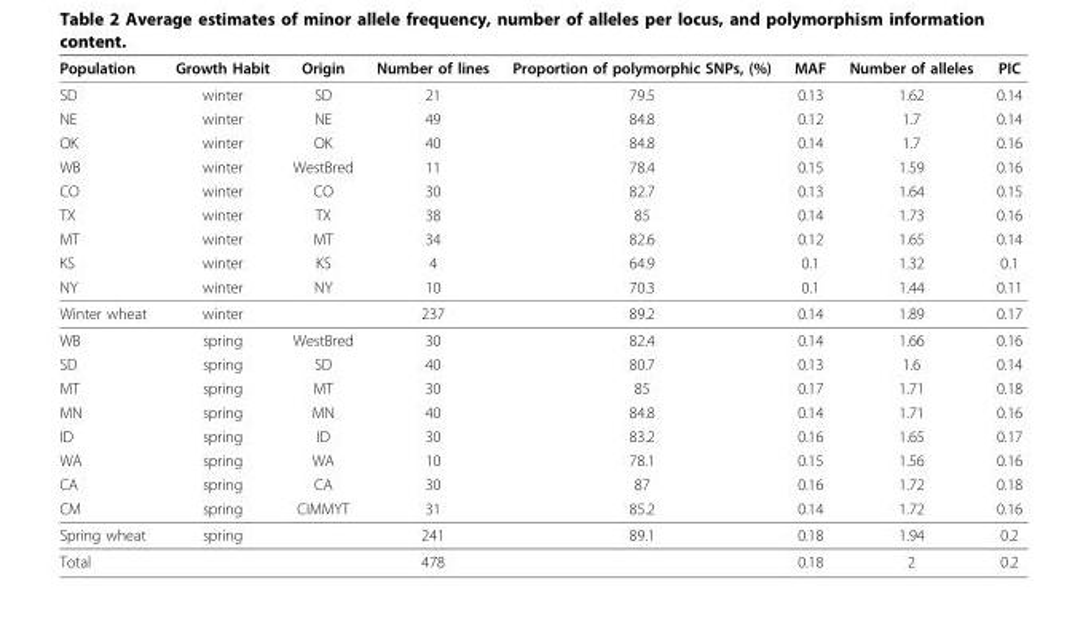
<table><thead><tr><td>Population</td><td>Growth Habit</td><td>Origin</td><td>Number of lines</td><td>Proportion of polymorphic SNPs, (%)</td><td>MAF</td><td>Number of alleles</td><td>PIC</td></tr></thead><tbody><tr><td>SD</td><td>winter</td><td>SD</td><td>21</td><td>79.5</td><td>0.13</td><td>1.62</td><td>0.14</td></tr><tr><td>NE</td><td>winter</td><td>NE</td><td>49</td><td>84.8</td><td>0.12</td><td>1.7</td><td>0.14</td></tr><tr><td>OK</td><td>winter</td><td>OK</td><td>40</td><td>84.8</td><td>0.14</td><td>1.7</td><td>0.16</td></tr><tr><td>WB</td><td>winter</td><td>WestBred</td><td>11</td><td>78.4</td><td>0.15</td><td>1.59</td><td>0.16</td></tr><tr><td>CO</td><td>winter</td><td>CO</td><td>30</td><td>82.7</td><td>0.13</td><td>1.64</td><td>0.15</td></tr><tr><td>TX</td><td>winter</td><td>TX</td><td>38</td><td>85</td><td>0.14</td><td>1.73</td><td>0.16</td></tr><tr><td>MT</td><td>winter</td><td>MT</td><td>34</td><td>82.6</td><td>0.12</td><td>1.65</td><td>0.14</td></tr><tr><td>KS</td><td>winter</td><td>KS</td><td>4</td><td>64.9</td><td>0.1</td><td>1.32</td><td>0.1</td></tr><tr><td>NY</td><td>winter</td><td>NY</td><td>10</td><td>70.3</td><td>0.1</td><td>1.44</td><td>0.11</td></tr><tr><td>Winter wheat</td><td>winter</td><td></td><td>237</td><td>89.2</td><td>0.14</td><td>1.89</td><td>0.17</td></tr><tr><td>WB</td><td>spring</td><td>WestBred</td><td>30</td><td>82.4</td><td>0.14</td><td>1.66</td><td>0.16</td></tr><tr><td>SD</td><td>spring</td><td>SD</td><td>40</td><td>80.7</td><td>0.13</td><td>1.6</td><td>0.14</td></tr><tr><td>MT</td><td>spring</td><td>MT</td><td>30</td><td>85</td><td>0.17</td><td>1.71</td><td>0.18</td></tr><tr><td>MN</td><td>spring</td><td>MN</td><td>40</td><td>84.8</td><td>0.14</td><td>1.71</td><td>0.16</td></tr><tr><td>ID</td><td>spring</td><td>ID</td><td>30</td><td>83.2</td><td>0.16</td><td>1.65</td><td>0.17</td></tr><tr><td>WA</td><td>spring</td><td>WA</td><td>10</td><td>78.1</td><td>0.15</td><td>1.56</td><td>0.16</td></tr><tr><td>CA</td><td>spring</td><td>CA</td><td>30</td><td>87</td><td>0.16</td><td>1.72</td><td>0.18</td></tr><tr><td>CM</td><td>spring</td><td>CIMMYT</td><td>31</td><td>85.2</td><td>0.14</td><td>1.72</td><td>0.16</td></tr><tr><td>Spring wheat</td><td>spring</td><td></td><td>241</td><td>89.1</td><td>0.18</td><td>1.94</td><td>0.2</td></tr><tr><td>Total</td><td></td><td></td><td>478</td><td></td><td>0.18</td><td>2</td><td>0.2</td></tr></tbody></table>